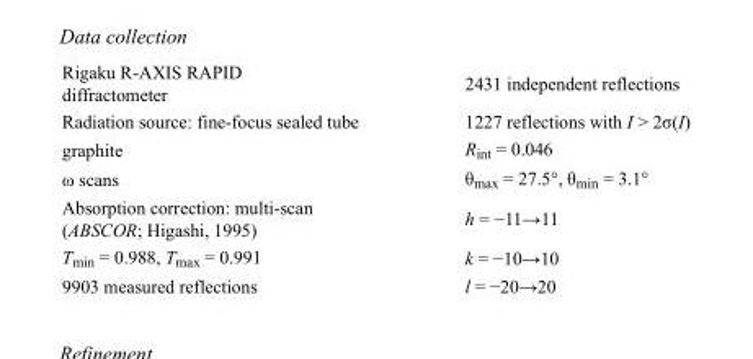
<table><tbody><tr><td>Rigaku R-AXIS RAPID diffractometer</td><td>2431 independent reflections</td></tr><tr><td>Radiation source: fine-focus sealed tube</td><td>1227 reflections with I &gt; 2σ(I)</td></tr><tr><td>graphite</td><td>R<sub>int</sub> = 0.046</td></tr><tr><td>ω scans</td><td>θ<sub>max</sub> = 27.5°, θ<sub>min</sub> = 3.1°</td></tr><tr><td>Absorption correction: multi-scan (ABSCOR; Higashi, 1995)</td><td>h = −11→11</td></tr><tr><td>T<sub>min</sub> = 0.988, T<sub>max</sub> = 0.991</td><td>k = −10→10</td></tr><tr><td>9903 measured reflections</td><td>l = −20→20</td></tr></tbody></table>